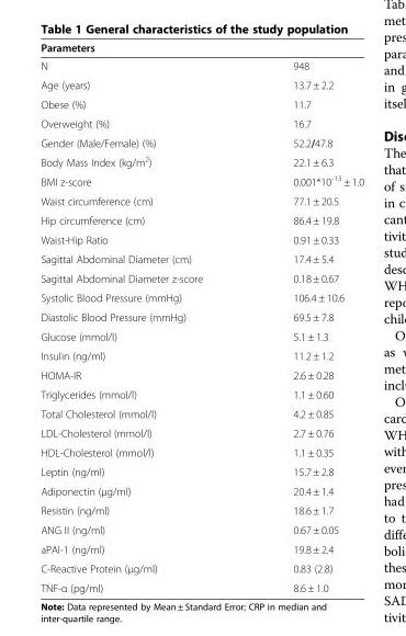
<table><thead><tr><td>Parameters</td><td></td></tr></thead><tbody><tr><td>N</td><td>948</td></tr><tr><td>Age (years)</td><td>13.7 ± 2.2</td></tr><tr><td>Obese (%)</td><td>11.7</td></tr><tr><td>Overweight (%)</td><td>16.7</td></tr><tr><td>Gender (Male/Female) (%)</td><td>52.2/47.8</td></tr><tr><td>Body Mass Index (kg/m<sup>2</sup>)</td><td>22.1 ± 6.3</td></tr><tr><td>BMI z-score</td><td>0.001*10<sup>-13</sup> ± 1.0</td></tr><tr><td>Waist circumference (cm)</td><td>77.1 ± 20.5</td></tr><tr><td>Hip circumference (cm)</td><td>86.4 ± 19.8</td></tr><tr><td>Waist-Hip Ratio</td><td>0.91 ± 0.33</td></tr><tr><td>Sagittal Abdominal Diameter (cm)</td><td>17.4 ± 5.4</td></tr><tr><td>Sagittal Abdominal Diameter z-score</td><td>0.18 ± 0.67</td></tr><tr><td>Systolic Blood Pressure (mmHg)</td><td>106.4 ± 10.6</td></tr><tr><td>Diastolic Blood Pressure (mmHg)</td><td>69.5 ± 7.8</td></tr><tr><td>Glucose (mmol/l)</td><td>5.1 ± 1.3</td></tr><tr><td>Insulin (ng/ml)</td><td>11.2 ± 1.2</td></tr><tr><td>HOMA-IR</td><td>2.6 ± 0.28</td></tr><tr><td>Triglycerides (mmol/l)</td><td>1.1 ± 0.60</td></tr><tr><td>Total Cholesterol (mmol/l)</td><td>4.2 ± 0.85</td></tr><tr><td>LDL-Cholesterol (mmol/l)</td><td>2.7 ± 0.76</td></tr><tr><td>HDL-Cholesterol (mmol/l)</td><td>1.1 ± 0.35</td></tr><tr><td>Leptin (ng/ml)</td><td>15.7 ± 2.8</td></tr><tr><td>Adiponectin (μg/ml)</td><td>20.4 ± 1.4</td></tr><tr><td>Resistin (ng/ml)</td><td>18.6 ± 1.7</td></tr><tr><td>ANG II (ng/ml)</td><td>0.67 ± 0.05</td></tr><tr><td>aPAI-1 (ng/ml)</td><td>19.8 ± 2.4</td></tr><tr><td>C-Reactive Protein (μg/ml)</td><td>0.83 (2.8)</td></tr><tr><td>TNF-α (pg/ml)</td><td>8.6 ± 1.0</td></tr></tbody></table>